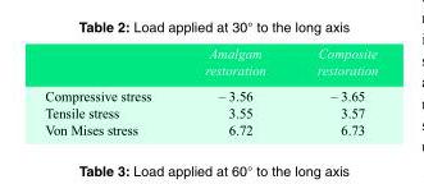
<table><thead><tr><td></td><td>Amalgam restoration</td><td>Composite restoration</td></tr></thead><tbody><tr><td>Compressive stress</td><td>– 3.56</td><td>– 3.65</td></tr><tr><td>Tensile stress</td><td>3.55</td><td>3.57</td></tr><tr><td>Von Mises stress</td><td>6.72</td><td>6.73</td></tr></tbody></table>